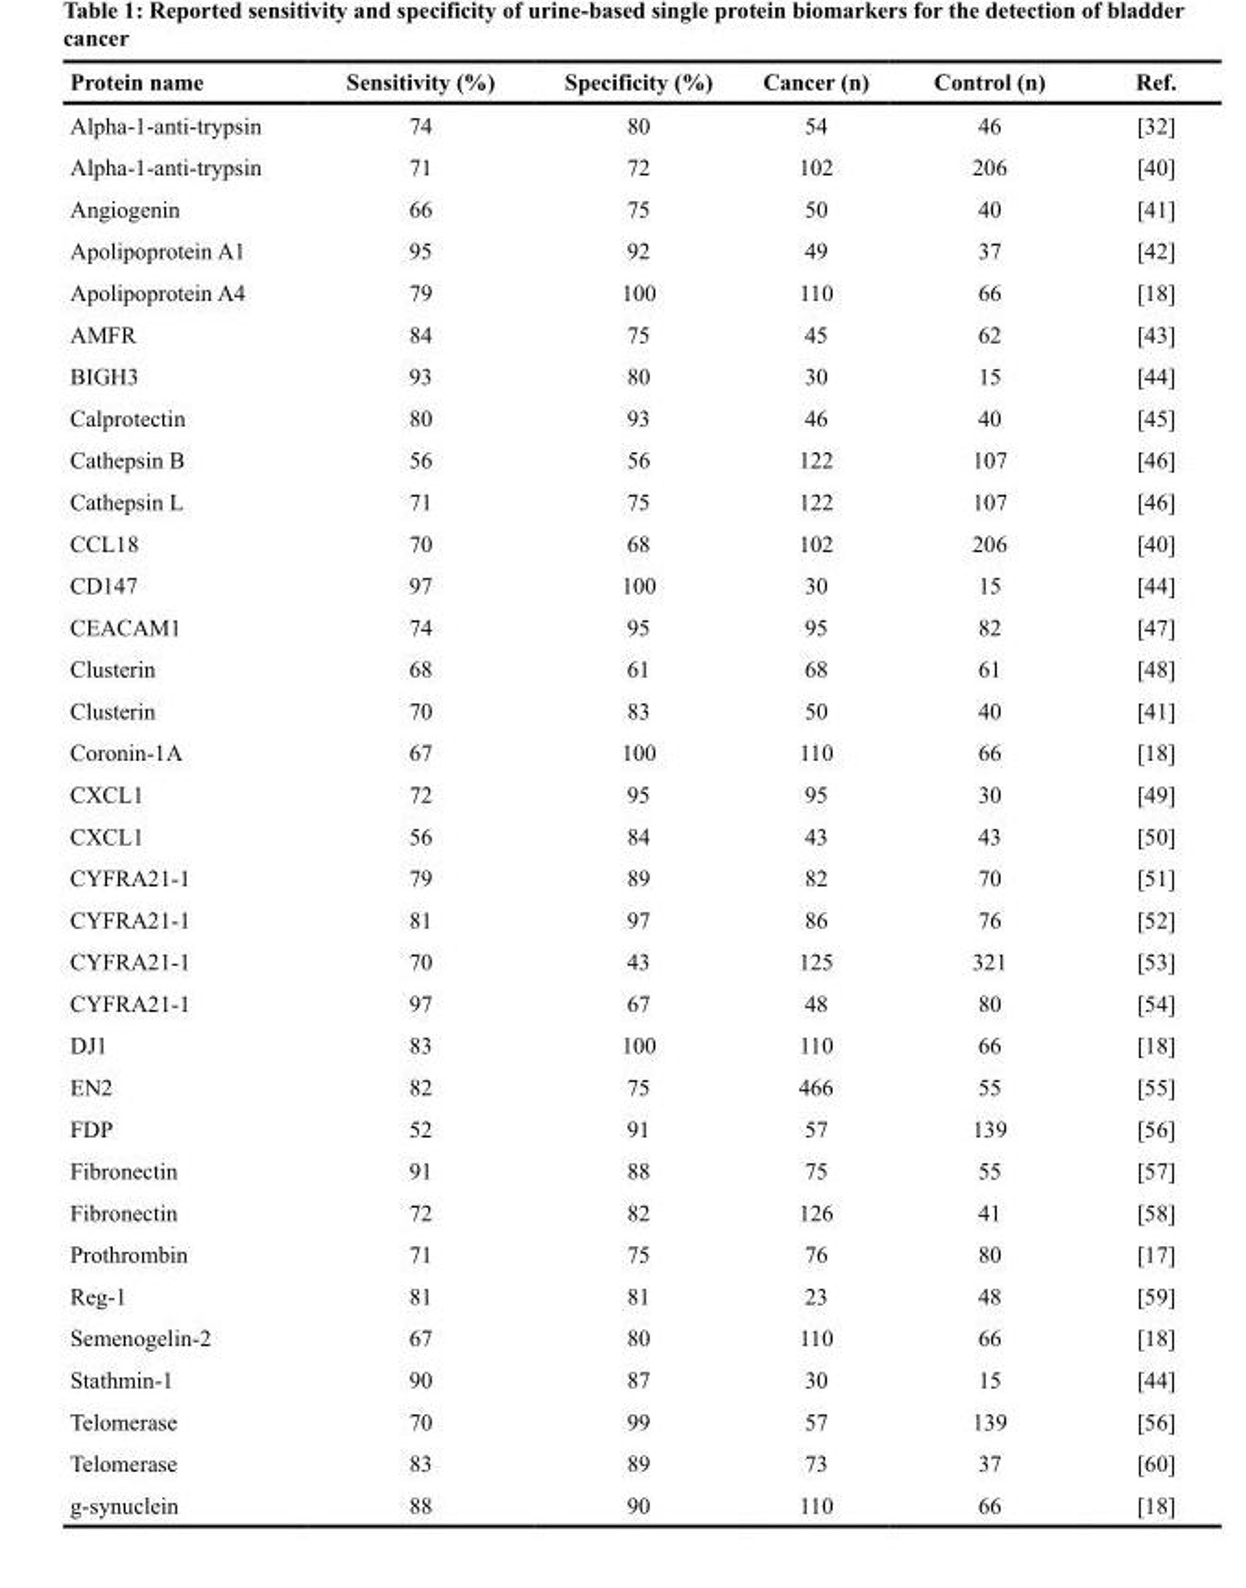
<table><thead><tr><td>Protein name</td><td>Sensitivity (%)</td><td>Specificity (%)</td><td>Cancer (n)</td><td>Control (n)</td><td>Ref.</td></tr></thead><tbody><tr><td>Alpha-1-anti-trypsin</td><td>74</td><td>80</td><td>54</td><td>46</td><td>[32]</td></tr><tr><td>Alpha-1-anti-trypsin</td><td>71</td><td>72</td><td>102</td><td>206</td><td>[40]</td></tr><tr><td>Angiogenin</td><td>66</td><td>75</td><td>50</td><td>40</td><td>[41]</td></tr><tr><td>Apolipoprotein A1</td><td>95</td><td>92</td><td>49</td><td>37</td><td>[42]</td></tr><tr><td>Apolipoprotein A4</td><td>79</td><td>100</td><td>110</td><td>66</td><td>[18]</td></tr><tr><td>AMFR</td><td>84</td><td>75</td><td>45</td><td>62</td><td>[43]</td></tr><tr><td>BIGH3</td><td>93</td><td>80</td><td>30</td><td>15</td><td>[44]</td></tr><tr><td>Calprotectin</td><td>80</td><td>93</td><td>46</td><td>40</td><td>[45]</td></tr><tr><td>Cathepsin B</td><td>56</td><td>56</td><td>122</td><td>107</td><td>[46]</td></tr><tr><td>Cathepsin L</td><td>71</td><td>75</td><td>122</td><td>107</td><td>[46]</td></tr><tr><td>CCL18</td><td>70</td><td>68</td><td>102</td><td>206</td><td>[40]</td></tr><tr><td>CD147</td><td>97</td><td>100</td><td>30</td><td>15</td><td>[44]</td></tr><tr><td>CEACAM1</td><td>74</td><td>95</td><td>95</td><td>82</td><td>[47]</td></tr><tr><td>Clusterin</td><td>68</td><td>61</td><td>68</td><td>61</td><td>[48]</td></tr><tr><td>Clusterin</td><td>70</td><td>83</td><td>50</td><td>40</td><td>[41]</td></tr><tr><td>Coronin-1A</td><td>67</td><td>100</td><td>110</td><td>66</td><td>[18]</td></tr><tr><td>CXCL1</td><td>72</td><td>95</td><td>95</td><td>30</td><td>[49]</td></tr><tr><td>CXCL1</td><td>56</td><td>84</td><td>43</td><td>43</td><td>[50]</td></tr><tr><td>CYFRA21-1</td><td>79</td><td>89</td><td>82</td><td>70</td><td>[51]</td></tr><tr><td>CYFRA21-1</td><td>81</td><td>97</td><td>86</td><td>76</td><td>[52]</td></tr><tr><td>CYFRA21-1</td><td>70</td><td>43</td><td>125</td><td>321</td><td>[53]</td></tr><tr><td>CYFRA21-1</td><td>97</td><td>67</td><td>48</td><td>80</td><td>[54]</td></tr><tr><td>DJ1</td><td>83</td><td>100</td><td>110</td><td>66</td><td>[18]</td></tr><tr><td>EN2</td><td>82</td><td>75</td><td>466</td><td>55</td><td>[55]</td></tr><tr><td>FDP</td><td>52</td><td>91</td><td>57</td><td>139</td><td>[56]</td></tr><tr><td>Fibronectin</td><td>91</td><td>88</td><td>75</td><td>55</td><td>[57]</td></tr><tr><td>Fibronectin</td><td>72</td><td>82</td><td>126</td><td>41</td><td>[58]</td></tr><tr><td>Prothrombin</td><td>71</td><td>75</td><td>76</td><td>80</td><td>[17]</td></tr><tr><td>Reg-1</td><td>81</td><td>81</td><td>23</td><td>48</td><td>[59]</td></tr><tr><td>Semenogelin-2</td><td>67</td><td>80</td><td>110</td><td>66</td><td>[18]</td></tr><tr><td>Stathmin-1</td><td>90</td><td>87</td><td>30</td><td>15</td><td>[44]</td></tr><tr><td>Telomerase</td><td>70</td><td>99</td><td>57</td><td>139</td><td>[56]</td></tr><tr><td>Telomerase</td><td>83</td><td>89</td><td>73</td><td>37</td><td>[60]</td></tr><tr><td>g-synuclein</td><td>88</td><td>90</td><td>110</td><td>66</td><td>[18]</td></tr></tbody></table>